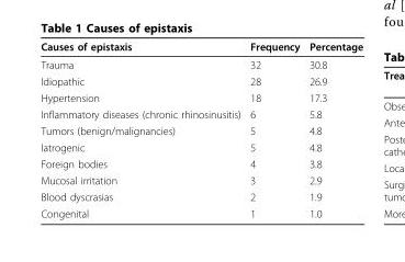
<table><thead><tr><td>Causes of epistaxis</td><td>Frequency</td><td>Percentage</td></tr></thead><tbody><tr><td>Trauma</td><td>32</td><td>30.8</td></tr><tr><td>Idiopathic</td><td>28</td><td>26.9</td></tr><tr><td>Hypertension</td><td>18</td><td>17.3</td></tr><tr><td>Inflammatory diseases (chronic rhinosinusitis)</td><td>6</td><td>5.8</td></tr><tr><td>Tumors (benign/malignancies)</td><td>5</td><td>4.8</td></tr><tr><td>Iatrogenic</td><td>5</td><td>4.8</td></tr><tr><td>Foreign bodies</td><td>4</td><td>3.8</td></tr><tr><td>Mucosal irritation</td><td>3</td><td>2.9</td></tr><tr><td>Blood dyscrasias</td><td>2</td><td>1.9</td></tr><tr><td>Congenital</td><td>1</td><td>1.0</td></tr></tbody></table>